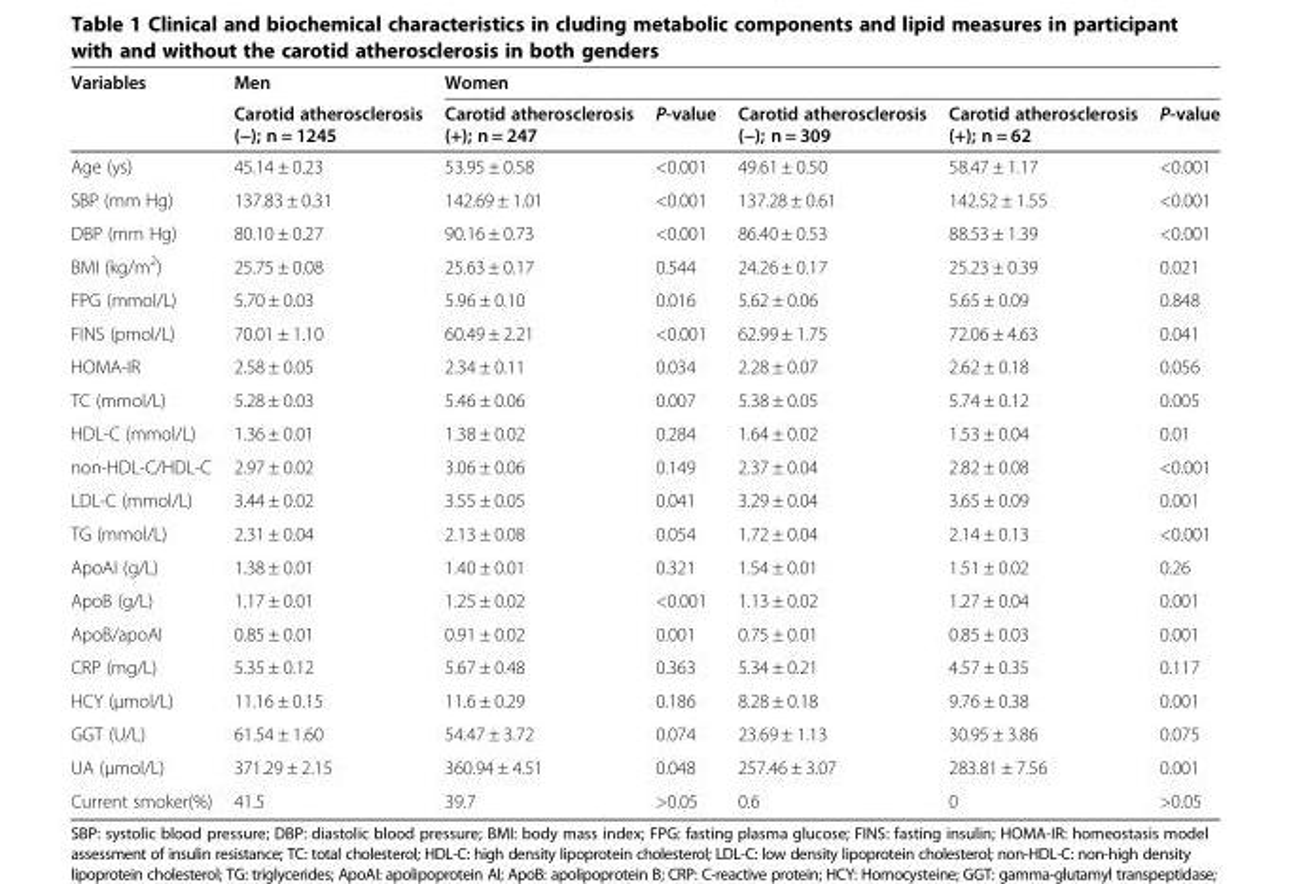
<table><thead><tr><td rowspan="2">Variables</td><td rowspan="2">Men Carotid atherosclerosis (−); n = 1245</td><td colspan="5">Women</td></tr><tr><td>Carotid atherosclerosis (+); n = 247</td><td>P-value</td><td>Carotid atherosclerosis (−); n = 309</td><td>Carotid atherosclerosis (+); n = 62</td><td>P-value</td></tr></thead><tbody><tr><td>Age (ys)</td><td>45.14 ± 0.23</td><td>53.95 ± 0.58</td><td>&lt;0.001</td><td>49.61 ± 0.50</td><td>58.47 ± 1.17</td><td>&lt;0.001</td></tr><tr><td>SBP (mm Hg)</td><td>137.83 ± 0.31</td><td>142.69 ± 1.01</td><td>&lt;0.001</td><td>137.28 ± 0.61</td><td>142.52 ± 1.55</td><td>&lt;0.001</td></tr><tr><td>DBP (mm Hg)</td><td>80.10 ± 0.27</td><td>90.16 ± 0.73</td><td>&lt;0.001</td><td>86.40 ± 0.53</td><td>88.53 ± 1.39</td><td>&lt;0.001</td></tr><tr><td>BMI (kg/m<sup>2</sup>)</td><td>25.75 ± 0.08</td><td>25.63 ± 0.17</td><td>0.544</td><td>24.26 ± 0.17</td><td>25.23 ± 0.39</td><td>0.021</td></tr><tr><td>FPG (mmol/L)</td><td>5.70 ± 0.03</td><td>5.96 ± 0.10</td><td>0.016</td><td>5.62 ± 0.06</td><td>5.65 ± 0.09</td><td>0.848</td></tr><tr><td>FINS (pmol/L)</td><td>70.01 ± 1.10</td><td>60.49 ± 2.21</td><td>&lt;0.001</td><td>62.99 ± 1.75</td><td>72.06 ± 4.63</td><td>0.041</td></tr><tr><td>HOMA-IR</td><td>2.58 ± 0.05</td><td>2.34 ± 0.11</td><td>0.034</td><td>2.28 ± 0.07</td><td>2.62 ± 0.18</td><td>0.056</td></tr><tr><td>TC (mmol/L)</td><td>5.28 ± 0.03</td><td>5.46 ± 0.06</td><td>0.007</td><td>5.38 ± 0.05</td><td>5.74 ± 0.12</td><td>0.005</td></tr><tr><td>HDL-C (mmol/L)</td><td>1.36 ± 0.01</td><td>1.38 ± 0.02</td><td>0.284</td><td>1.64 ± 0.02</td><td>1.53 ± 0.04</td><td>0.01</td></tr><tr><td>non-HDL-C/HDL-C</td><td>2.97 ± 0.02</td><td>3.06 ± 0.06</td><td>0.149</td><td>2.37 ± 0.04</td><td>2.82 ± 0.08</td><td>&lt;0.001</td></tr><tr><td>LDL-C (mmol/L)</td><td>3.44 ± 0.02</td><td>3.55 ± 0.05</td><td>0.041</td><td>3.29 ± 0.04</td><td>3.65 ± 0.09</td><td>0.001</td></tr><tr><td>TG (mmol/L)</td><td>2.31 ± 0.04</td><td>2.13 ± 0.08</td><td>0.054</td><td>1.72 ± 0.04</td><td>2.14 ± 0.13</td><td>&lt;0.001</td></tr><tr><td>ApoAΙ (g/L)</td><td>1.38 ± 0.01</td><td>1.40 ± 0.01</td><td>0.321</td><td>1.54 ± 0.01</td><td>1.51 ± 0.02</td><td>0.26</td></tr><tr><td>ApoB (g/L)</td><td>1.17 ± 0.01</td><td>1.25 ± 0.02</td><td>&lt;0.001</td><td>1.13 ± 0.02</td><td>1.27 ± 0.04</td><td>0.001</td></tr><tr><td>ApoB/apoAΙ</td><td>0.85 ± 0.01</td><td>0.91 ± 0.02</td><td>0.001</td><td>0.75 ± 0.01</td><td>0.85 ± 0.03</td><td>0.001</td></tr><tr><td>CRP (mg/L)</td><td>5.35 ± 0.12</td><td>5.67 ± 0.48</td><td>0.363</td><td>5.34 ± 0.21</td><td>4.57 ± 0.35</td><td>0.117</td></tr><tr><td>HCY (μmol/L)</td><td>11.16 ± 0.15</td><td>11.6 ± 0.29</td><td>0.186</td><td>8.28 ± 0.18</td><td>9.76 ± 0.38</td><td>0.001</td></tr><tr><td>GGT (U/L)</td><td>61.54 ± 1.60</td><td>54.47 ± 3.72</td><td>0.074</td><td>23.69 ± 1.13</td><td>30.95 ± 3.86</td><td>0.075</td></tr><tr><td>UA (μmol/L)</td><td>371.29 ± 2.15</td><td>360.94 ± 4.51</td><td>0.048</td><td>257.46 ± 3.07</td><td>283.81 ± 7.56</td><td>0.001</td></tr><tr><td>Current smoker(%)</td><td>41.5</td><td>39.7</td><td>&gt;0.05</td><td>0.6</td><td>0</td><td>&gt;0.05</td></tr></tbody></table>